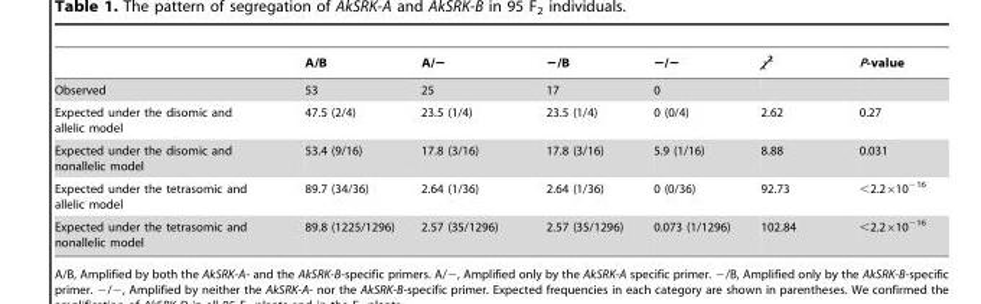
<table><thead><tr><td></td><td>A/B</td><td>A/−</td><td>−/B</td><td>−/−</td><td>χ<sup>2</sup></td><td>P-value</td></tr></thead><tbody><tr><td>Observed</td><td>53</td><td>25</td><td>17</td><td>0</td><td></td><td></td></tr><tr><td>Expected under the disomic and allelic model</td><td>47.5 (2/4)</td><td>23.5 (1/4)</td><td>23.5 (1/4)</td><td>0 (0/4)</td><td>2.62</td><td>0.27</td></tr><tr><td>Expected under the disomic and nonallelic model</td><td>53.4 (9/16)</td><td>17.8 (3/16)</td><td>17.8 (3/16)</td><td>5.9 (1/16)</td><td>8.88</td><td>0.031</td></tr><tr><td>Expected under the tetrasomic and allelic model</td><td>89.7 (34/36)</td><td>2.64 (1/36)</td><td>2.64 (1/36)</td><td>0 (0/36)</td><td>92.73</td><td>&lt;2.2×10<sup>−16</sup></td></tr><tr><td>Expected under the tetrasomic and nonallelic model</td><td>89.8 (1225/1296)</td><td>2.57 (35/1296)</td><td>2.57 (35/1296)</td><td>0.073 (1/1296)</td><td>102.84</td><td>&lt;2.2×10<sup>−16</sup></td></tr></tbody></table>